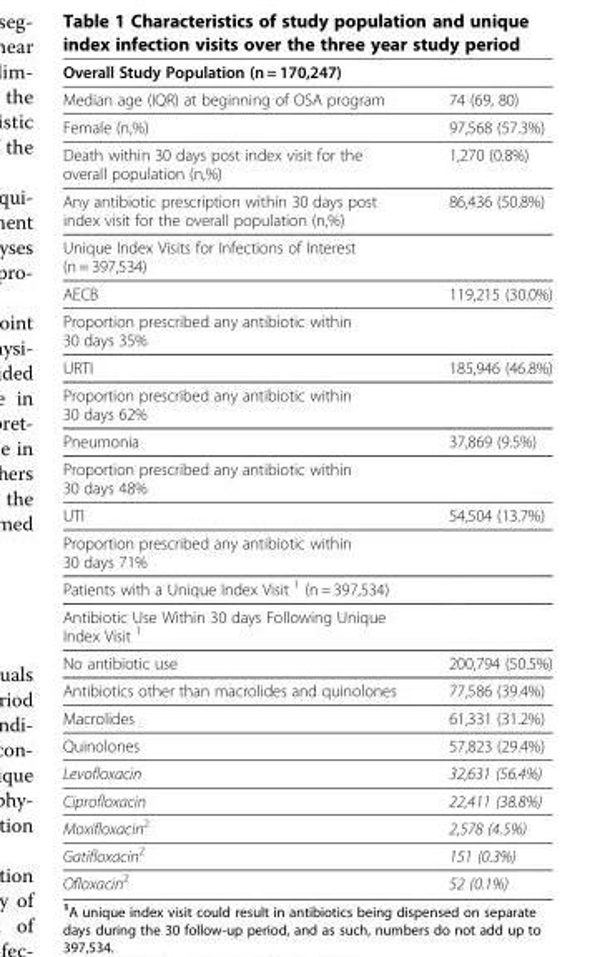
<table><thead><tr><td>Overall Study Population (n = 170,247)</td><td></td></tr></thead><tbody><tr><td>Median age (IQR) at beginning of OSA program</td><td>74 (69, 80)</td></tr><tr><td>Female (n,%)</td><td>97,568 (57.3%)</td></tr><tr><td>Death within 30 days post index visit for the overall population (n,%)</td><td>1,270 (0.8%)</td></tr><tr><td>Any antibiotic prescription within 30 days post index visit for the overall population (n,%)</td><td>86,436 (50.8%)</td></tr><tr><td colspan="2">Unique Index Visits for Infections of Interest (n = 397,534)</td></tr><tr><td>AECB</td><td>119,215 (30.0%)</td></tr><tr><td colspan="2">Proportion prescribed any antibiotic within 30 days 35%</td></tr><tr><td>URTI</td><td>185,946 (46.8%)</td></tr><tr><td colspan="2">Proportion prescribed any antibiotic within 30 days 62%</td></tr><tr><td>Pneumonia</td><td>37,869 (9.5%)</td></tr><tr><td colspan="2">Proportion prescribed any antibiotic within 30 days 48%</td></tr><tr><td>UTI</td><td>54,504 (13.7%)</td></tr><tr><td colspan="2">Proportion prescribed any antibiotic within 30 days 71%</td></tr><tr><td colspan="2">Patients with a Unique Index Visit <sup>1</sup> (n = 397,534)</td></tr><tr><td colspan="2">Antibiotic Use Within 30 days Following Unique Index Visit <sup>1</sup></td></tr><tr><td>No antibiotic use</td><td>200,794 (50.5%)</td></tr><tr><td>Antibiotics other than macrolides and quinolones</td><td>77,586 (39.4%)</td></tr><tr><td>Macrolides</td><td>61,331 (31.2%)</td></tr><tr><td>Quinolones</td><td>57,823 (29.4%)</td></tr><tr><td>Levofloxacin</td><td>32,631 (56.4%)</td></tr><tr><td>Ciprofloxacin</td><td>22,411 (38.8%)</td></tr><tr><td>Moxifloxacin<sup>2</sup></td><td>2,578 (4.5%)</td></tr><tr><td>Gatifloxacin<sup>2</sup></td><td>151 (0.3%)</td></tr><tr><td>Ofloxacin<sup>2</sup></td><td>52 (0.1%)</td></tr></tbody></table>